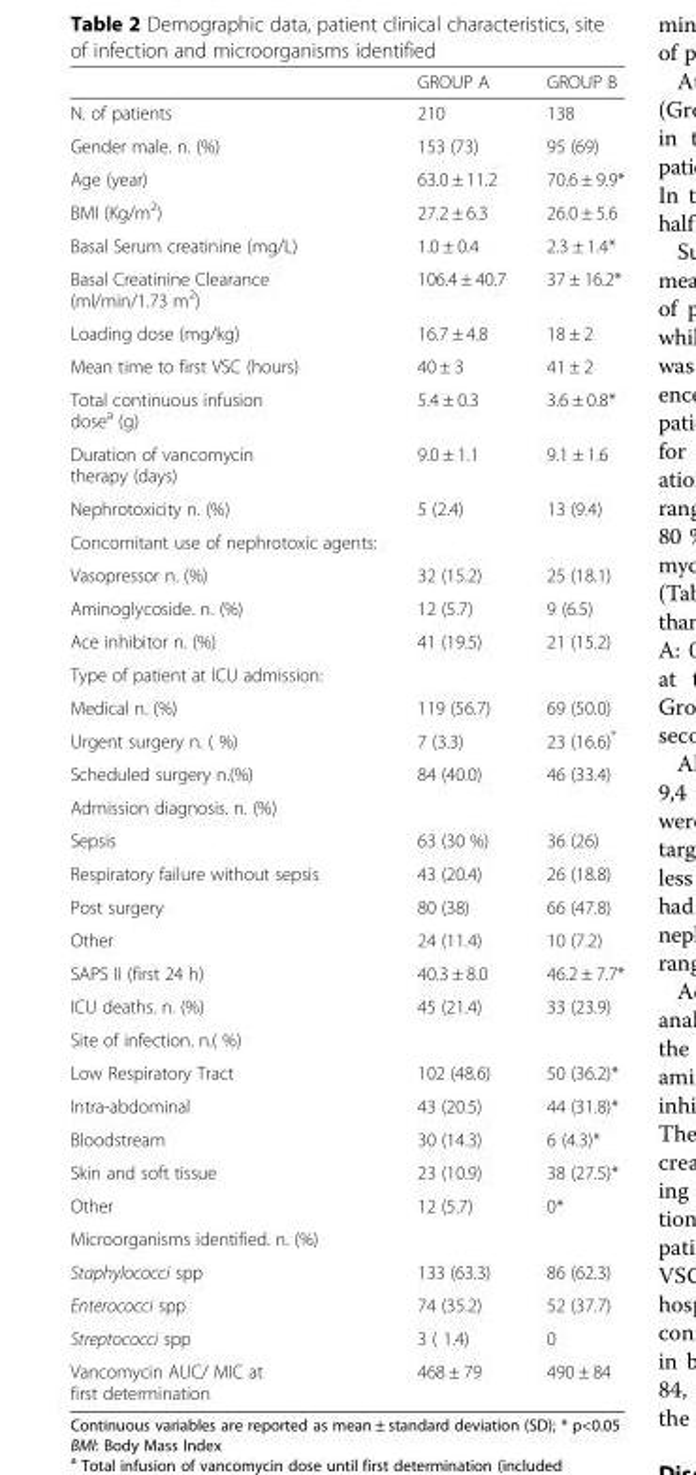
<table><thead><tr><td></td><td>GROUP A</td><td>GROUP B</td></tr></thead><tbody><tr><td>N. of patients</td><td>210</td><td>138</td></tr><tr><td>Gender male. n. (%)</td><td>153 (73)</td><td>95 (69)</td></tr><tr><td>Age (year)</td><td>63.0 ± 11.2</td><td>70.6 ± 9.9*</td></tr><tr><td>BMI (Kg/m<sup>2</sup>)</td><td>27.2 ± 6.3</td><td>26.0 ± 5.6</td></tr><tr><td>Basal Serum creatinine (mg/L)</td><td>1.0 ± 0.4</td><td>2.3 ± 1.4*</td></tr><tr><td>Basal Creatinine Clearance (ml/min/1.73 m<sup>2</sup>)</td><td>106.4 ± 40.7</td><td>37 ± 16.2*</td></tr><tr><td>Loading dose (mg/kg)</td><td>16.7 ± 4.8</td><td>18 ± 2</td></tr><tr><td>Mean time to first VSC (hours)</td><td>40 ± 3</td><td>41 ± 2</td></tr><tr><td>Total continuous infusion dose<sup>a</sup> (g)</td><td>5.4 ± 0.3</td><td>3.6 ± 0.8*</td></tr><tr><td>Duration of vancomycin therapy (days)</td><td>9.0 ± 1.1</td><td>9.1 ± 1.6</td></tr><tr><td>Nephrotoxicity n. (%)</td><td rowspan="2">5 (2.4)</td><td rowspan="2">13 (9.4)</td></tr><tr><td>Concomitant use of nephrotoxic agents:</td></tr><tr><td>Vasopressor n. (%)</td><td>32 (15.2)</td><td>25 (18.1)</td></tr><tr><td>Aminoglycoside. n. (%)</td><td>12 (5.7)</td><td>9 (6.5)</td></tr><tr><td>Ace inhibitor n. (%)</td><td>41 (19.5)</td><td>21 (15.2)</td></tr><tr><td colspan="3">Type of patient at ICU admission:</td></tr><tr><td>Medical n. (%)</td><td>119 (56.7)</td><td>69 (50.0)</td></tr><tr><td>Urgent surgery n. ( %)</td><td>7 (3.3)</td><td>23 (16.6)*</td></tr><tr><td>Scheduled surgery n.(%)</td><td>84 (40.0)</td><td>46 (33.4)</td></tr><tr><td colspan="3">Admission diagnosis. n. (%)</td></tr><tr><td>Sepsis</td><td>63 (30 %)</td><td>36 (26)</td></tr><tr><td>Respiratory failure without sepsis</td><td>43 (20.4)</td><td>26 (18.8)</td></tr><tr><td>Post surgery</td><td>80 (38)</td><td>66 (47.8)</td></tr><tr><td>Other</td><td>24 (11.4)</td><td>10 (7.2)</td></tr><tr><td>SAPS II (first 24 h)</td><td>40.3 ± 8.0</td><td>46.2 ± 7.7*</td></tr><tr><td>ICU deaths. n. (%)</td><td>45 (21.4)</td><td>33 (23.9)</td></tr><tr><td colspan="3">Site of infection. n.( %)</td></tr><tr><td>Low Respiratory Tract</td><td>102 (48.6)</td><td>50 (36.2)*</td></tr><tr><td>Intra-abdominal</td><td>43 (20.5)</td><td>44 (31.8)*</td></tr><tr><td>Bloodstream</td><td>30 (14.3)</td><td>6 (4.3)*</td></tr><tr><td>Skin and soft tissue</td><td>23 (10.9)</td><td>38 (27.5)*</td></tr><tr><td>Other</td><td>12 (5.7)</td><td>0*</td></tr><tr><td colspan="3">Microorganisms identified. n. (%)</td></tr><tr><td>Staphylococci spp</td><td>133 (63.3)</td><td>86 (62.3)</td></tr><tr><td>Enterococci spp</td><td>74 (35.2)</td><td>52 (37.7)</td></tr><tr><td>Streptococci spp</td><td>3 ( 1.4)</td><td>0</td></tr><tr><td>Vancomycin AUC/ MIC at first determination</td><td>468 ± 79</td><td>490 ± 84</td></tr></tbody></table>